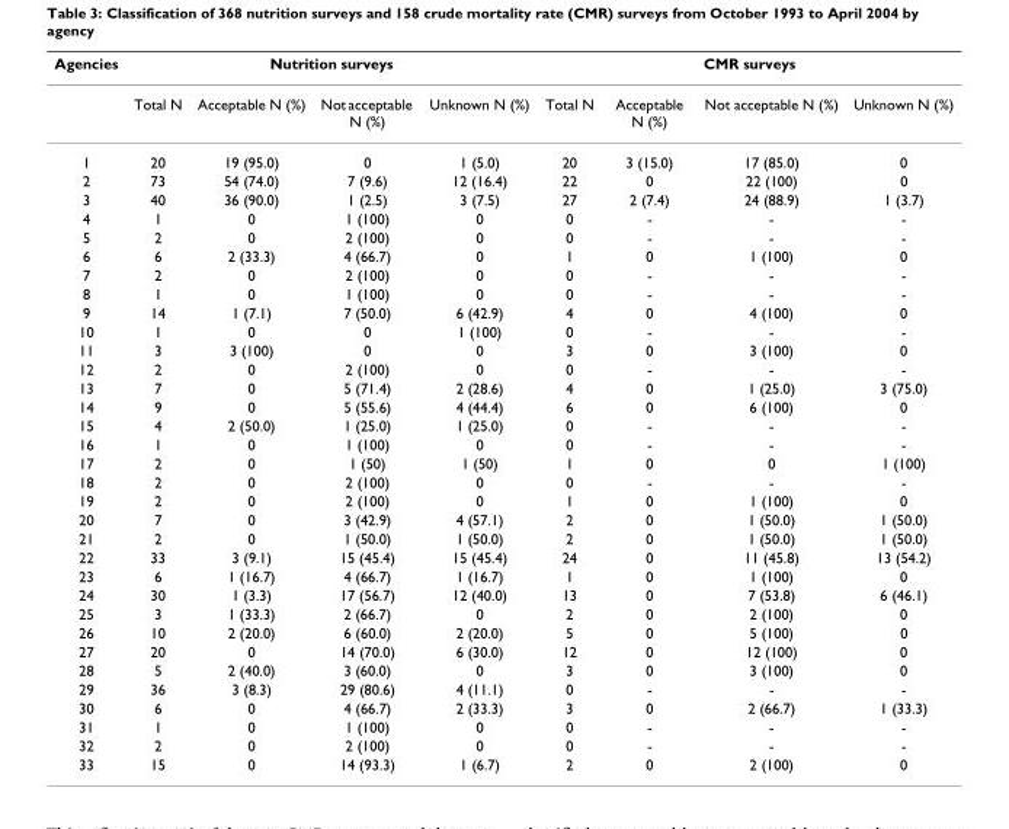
<table><thead><tr><td rowspan="2">Agencies</td><td colspan="4">Nutrition surveys</td><td colspan="4">CMR surveys</td></tr><tr><td>Total N</td><td>Acceptable N (%)</td><td>Not acceptable N (%)</td><td>Unknown N (%)</td><td>Total N</td><td>Acceptable N (%)</td><td>Not acceptable N (%)</td><td>Unknown N (%)</td></tr></thead><tbody><tr><td>1</td><td>20</td><td>19 (95.0)</td><td>0</td><td>1 (5.0)</td><td>20</td><td>3 (15.0)</td><td>17 (85.0)</td><td>0</td></tr><tr><td>2</td><td>73</td><td>54 (74.0)</td><td>7 (9.6)</td><td>12 (16.4)</td><td>22</td><td>0</td><td>22 (100)</td><td>0</td></tr><tr><td>3</td><td>40</td><td>36 (90.0)</td><td>1 (2.5)</td><td>3 (7.5)</td><td>27</td><td>2 (7.4)</td><td>24 (88.9)</td><td>1 (3.7)</td></tr><tr><td>4</td><td>1</td><td>0</td><td>1 (100)</td><td>0</td><td>0</td><td>-</td><td>-</td><td>-</td></tr><tr><td>5</td><td>2</td><td>0</td><td>2 (100)</td><td>0</td><td>0</td><td>-</td><td>-</td><td>-</td></tr><tr><td>6</td><td>6</td><td>2 (33.3)</td><td>4 (66.7)</td><td>0</td><td>1</td><td>0</td><td>1 (100)</td><td>0</td></tr><tr><td>7</td><td>2</td><td>0</td><td>2 (100)</td><td>0</td><td>0</td><td>-</td><td>-</td><td>-</td></tr><tr><td>8</td><td>1</td><td>0</td><td>1 (100)</td><td>0</td><td>0</td><td>-</td><td>-</td><td>-</td></tr><tr><td>9</td><td>14</td><td>1 (7.1)</td><td>7 (50.0)</td><td>6 (42.9)</td><td>4</td><td>0</td><td>4 (100)</td><td>0</td></tr><tr><td>10</td><td>1</td><td>0</td><td>0</td><td>1 (100)</td><td>0</td><td>-</td><td>-</td><td>-</td></tr><tr><td>11</td><td>3</td><td>3 (100)</td><td>0</td><td>0</td><td>3</td><td>0</td><td>3 (100)</td><td>0</td></tr><tr><td>12</td><td>2</td><td>0</td><td>2 (100)</td><td>0</td><td>0</td><td>-</td><td>-</td><td>-</td></tr><tr><td>13</td><td>7</td><td>0</td><td>5 (71.4)</td><td>2 (28.6)</td><td>4</td><td>0</td><td>1 (25.0)</td><td>3 (75.0)</td></tr><tr><td>14</td><td>9</td><td>0</td><td>5 (55.6)</td><td>4 (44.4)</td><td>6</td><td>0</td><td>6 (100)</td><td>0</td></tr><tr><td>15</td><td>4</td><td>2 (50.0)</td><td>1 (25.0)</td><td>1 (25.0)</td><td>0</td><td>-</td><td>-</td><td>-</td></tr><tr><td>16</td><td>1</td><td>0</td><td>1 (100)</td><td>0</td><td>0</td><td>-</td><td>-</td><td>-</td></tr><tr><td>17</td><td>2</td><td>0</td><td>1 (50)</td><td>1 (50)</td><td>1</td><td>0</td><td>0</td><td>1 (100)</td></tr><tr><td>18</td><td>2</td><td>0</td><td>2 (100)</td><td>0</td><td>0</td><td>-</td><td>-</td><td>-</td></tr><tr><td>19</td><td>2</td><td>0</td><td>2 (100)</td><td>0</td><td>1</td><td>0</td><td>1 (100)</td><td>0</td></tr><tr><td>20</td><td>7</td><td>0</td><td>3 (42.9)</td><td>4 (57.1)</td><td>2</td><td>0</td><td>1 (50.0)</td><td>1 (50.0)</td></tr><tr><td>21</td><td>2</td><td>0</td><td>1 (50.0)</td><td>1 (50.0)</td><td>2</td><td>0</td><td>1 (50.0)</td><td>1 (50.0)</td></tr><tr><td>22</td><td>33</td><td>3 (9.1)</td><td>15 (45.4)</td><td>15 (45.4)</td><td>24</td><td>0</td><td>11 (45.8)</td><td>13 (54.2)</td></tr><tr><td>23</td><td>6</td><td>1 (16.7)</td><td>4 (66.7)</td><td>1 (16.7)</td><td>1</td><td>0</td><td>1 (100)</td><td>0</td></tr><tr><td>24</td><td>30</td><td>1 (3.3)</td><td>17 (56.7)</td><td>12 (40.0)</td><td>13</td><td>0</td><td>7 (53.8)</td><td>6 (46.1)</td></tr><tr><td>25</td><td>3</td><td>1 (33.3)</td><td>2 (66.7)</td><td>0</td><td>2</td><td>0</td><td>2 (100)</td><td>0</td></tr><tr><td>26</td><td>10</td><td>2 (20.0)</td><td>6 (60.0)</td><td>2 (20.0)</td><td>5</td><td>0</td><td>5 (100)</td><td>0</td></tr><tr><td>27</td><td>20</td><td>0</td><td>14 (70.0)</td><td>6 (30.0)</td><td>12</td><td>0</td><td>12 (100)</td><td>0</td></tr><tr><td>28</td><td>5</td><td>2 (40.0)</td><td>3 (60.0)</td><td>0</td><td>3</td><td>0</td><td>3 (100)</td><td>0</td></tr><tr><td>29</td><td>36</td><td>3 (8.3)</td><td>29 (80.6)</td><td>4 (11.1)</td><td>0</td><td>-</td><td>-</td><td>-</td></tr><tr><td>30</td><td>6</td><td>0</td><td>4 (66.7)</td><td>2 (33.3)</td><td>3</td><td>0</td><td>2 (66.7)</td><td>1 (33.3)</td></tr><tr><td>31</td><td>1</td><td>0</td><td>1 (100)</td><td>0</td><td>0</td><td>-</td><td>-</td><td>-</td></tr><tr><td>32</td><td>2</td><td>0</td><td>2 (100)</td><td>0</td><td>0</td><td>-</td><td>-</td><td>-</td></tr><tr><td>33</td><td>15</td><td>0</td><td>14 (93.3)</td><td>1 (6.7)</td><td>2</td><td>0</td><td>2 (100)</td><td>0</td></tr></tbody></table>